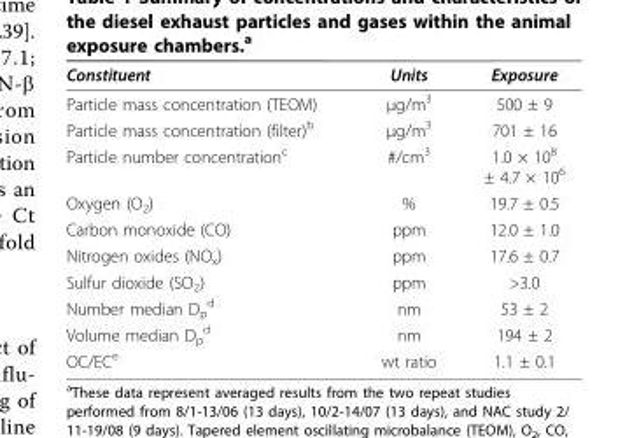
<table><thead><tr><td>Constituent</td><td>Units</td><td>Exposure</td></tr></thead><tbody><tr><td>Particle mass concentration (TEOM)</td><td>μg/m<sup>3</sup></td><td>500 ± 9</td></tr><tr><td>Particle mass concentration (filter)<sup>b</sup></td><td>μg/m<sup>3</sup></td><td>701 ± 16</td></tr><tr><td>Particle number concentration<sup>c</sup></td><td>#/cm<sup>3</sup></td><td>1.0 × 10<sup>8</sup> ± 4.7 × 10<sup>6</sup></td></tr><tr><td>Oxygen (O<sub>2</sub>)</td><td>%</td><td>19.7 ± 0.5</td></tr><tr><td>Carbon monoxide (CO)</td><td>ppm</td><td>12.0 ± 1.0</td></tr><tr><td>Nitrogen oxides (NO<sub>x</sub>)</td><td>ppm</td><td>17.6 ± 0.7</td></tr><tr><td>Sulfur dioxide (SO<sub>2</sub>)</td><td>ppm</td><td>&gt;3.0</td></tr><tr><td>Number median D<sub>p</sub> <sup>d</sup></td><td>nm</td><td>53 ± 2</td></tr><tr><td>Volume median D<sub>p</sub> <sup>d</sup></td><td>nm</td><td>194 ± 2</td></tr><tr><td>OC/EC<sup>e</sup></td><td>wt ratio</td><td>1.1 ± 0.1</td></tr></tbody></table>